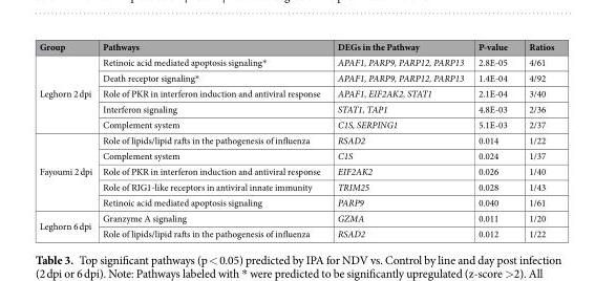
<table><thead><tr><td>Group</td><td>Pathways</td><td>DEGs in the Pathway</td><td>P-value</td><td>Ratios</td></tr></thead><tbody><tr><td rowspan="5">Leghorn 2 dpi</td><td>Retinoic acid mediated apoptosis signaling*</td><td>APAF1, PARP9, PARP12, PARP13</td><td>2.8E-05</td><td>4/61</td></tr><tr><td>Death receptor signaling*</td><td>APAF1, PARP9, PARP12, PARP13</td><td>1.4E-04</td><td>4/92</td></tr><tr><td>Role of PKR in interferon induction and antiviral response</td><td>APAF1, EIF2AK2, STAT1</td><td>2.1E-04</td><td>3/40</td></tr><tr><td>Interferon signaling</td><td>STAT1, TAP1</td><td>4.8E-03</td><td>2/36</td></tr><tr><td>Complement system</td><td>C1S, SERPING1</td><td>5.1E-03</td><td>2/37</td></tr><tr><td rowspan="5">Fayoumi 2 dpi</td><td>Role of lipids/lipid rafts in the pathogenesis of influenza</td><td>RSAD2</td><td>0.014</td><td>1/22</td></tr><tr><td>Complement system</td><td>C1S</td><td>0.024</td><td>1/37</td></tr><tr><td>Role of PKR in interferon induction and antiviral response</td><td>EIF2AK2</td><td>0.026</td><td>1/40</td></tr><tr><td>Role of RIG1-like receptors in antiviral innate immunity</td><td>TRIM25</td><td>0.028</td><td>1/43</td></tr><tr><td>Retinoic acid mediated apoptosis signaling</td><td>PARP9</td><td>0.040</td><td>1/61</td></tr><tr><td rowspan="2">Leghorn 6 dpi</td><td>Granzyme A signaling</td><td>GZMA</td><td>0.011</td><td>1/20</td></tr><tr><td>Role of lipids/lipid rafts in the pathogenesis of influenza</td><td>RSAD2</td><td>0.012</td><td>1/22</td></tr></tbody></table>